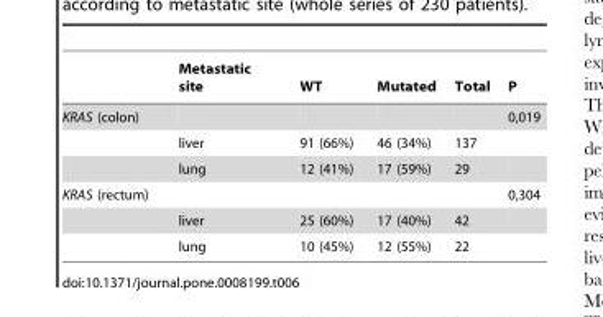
<table><thead><tr><td></td><td>Metastatic site</td><td>WT</td><td>Mutated</td><td>Total</td><td>P</td></tr></thead><tbody><tr><td rowspan="3">KRAS (colon)</td><td></td><td></td><td></td><td></td><td>0,019</td></tr><tr><td>liver</td><td>91 (66%)</td><td>46 (34%)</td><td>137</td><td></td></tr><tr><td>lung</td><td>12 (41%)</td><td>17 (59%)</td><td>29</td><td></td></tr><tr><td rowspan="3">KRAS (rectum)</td><td></td><td></td><td></td><td></td><td>0,304</td></tr><tr><td>liver</td><td>25 (60%)</td><td>17 (40%)</td><td>42</td><td></td></tr><tr><td>lung</td><td>10 (45%)</td><td>12 (55%)</td><td>22</td><td></td></tr></tbody></table>